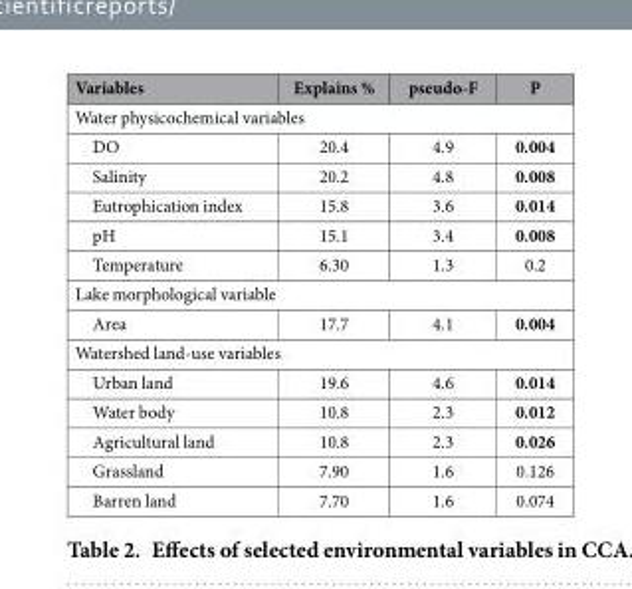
<table><thead><tr><td>Variables</td><td>Explains %</td><td>pseudo-F</td><td>P</td></tr></thead><tbody><tr><td colspan="4">Water physicochemical variables</td></tr><tr><td>DO</td><td>20.4</td><td>4.9</td><td>0.004</td></tr><tr><td>Salinity</td><td>20.2</td><td>4.8</td><td>0.008</td></tr><tr><td>Eutrophication index</td><td>15.8</td><td>3.6</td><td>0.014</td></tr><tr><td>pH</td><td>15.1</td><td>3.4</td><td>0.008</td></tr><tr><td>Temperature</td><td>6.30</td><td>1.3</td><td>0.2</td></tr><tr><td colspan="4">Lake morphological variable</td></tr><tr><td>Area</td><td>17.7</td><td>4.1</td><td>0.004</td></tr><tr><td colspan="4">Watershed land-use variables</td></tr><tr><td>Urban land</td><td>19.6</td><td>4.6</td><td>0.014</td></tr><tr><td>Water body</td><td>10.8</td><td>2.3</td><td>0.012</td></tr><tr><td>Agricultural land</td><td>10.8</td><td>2.3</td><td>0.026</td></tr><tr><td>Grassland</td><td>7.90</td><td>1.6</td><td>0.126</td></tr><tr><td>Barren land</td><td>7.70</td><td>1.6</td><td>0.074</td></tr></tbody></table>